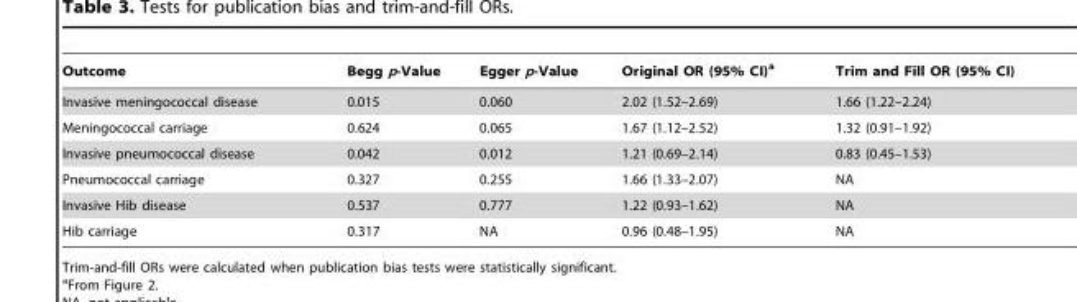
<table><thead><tr><td>Outcome</td><td>Begg p-Value</td><td>Egger p-Value</td><td>Original OR (95% CI)<sup>a</sup></td><td>Trim and Fill OR (95% CI)</td></tr></thead><tbody><tr><td>Invasive meningococcal disease</td><td>0.015</td><td>0.060</td><td>2.02 (1.52–2.69)</td><td>1.66 (1.22–2.24)</td></tr><tr><td>Meningococcal carriage</td><td>0.624</td><td>0.065</td><td>1.67 (1.12–2.52)</td><td>1.32 (0.91–1.92)</td></tr><tr><td>Invasive pneumococcal disease</td><td>0.042</td><td>0.012</td><td>1.21 (0.69–2.14)</td><td>0.83 (0.45–1.53)</td></tr><tr><td>Pneumococcal carriage</td><td>0.327</td><td>0.255</td><td>1.66 (1.33–2.07)</td><td>NA</td></tr><tr><td>Invasive Hib disease</td><td>0.537</td><td>0.777</td><td>1.22 (0.93–1.62)</td><td>NA</td></tr><tr><td>Hib carriage</td><td>0.317</td><td>NA</td><td>0.96 (0.48–1.95)</td><td>NA</td></tr></tbody></table>